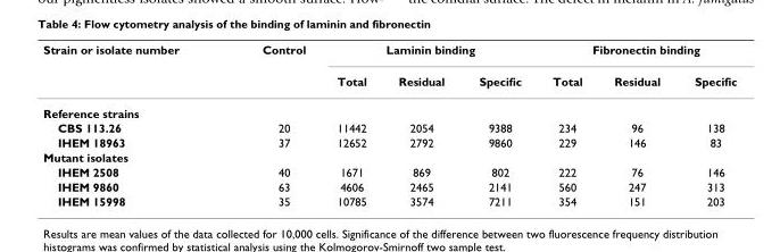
<table><thead><tr><td rowspan="2">Strain or isolate number</td><td rowspan="2">Control</td><td colspan="3">Laminin binding</td><td colspan="3">Fibronectin binding</td></tr><tr><td>Total</td><td>Residual</td><td>Specific</td><td>Total</td><td>Residual</td><td>Specific</td></tr></thead><tbody><tr><td colspan="8">Reference strains</td></tr><tr><td>CBS 113.26</td><td>20</td><td>11442</td><td>2054</td><td>9388</td><td>234</td><td>96</td><td>138</td></tr><tr><td>IHEM 18963</td><td>37</td><td>12652</td><td>2792</td><td>9860</td><td>229</td><td>146</td><td>83</td></tr><tr><td colspan="8">Mutant isolates</td></tr><tr><td>IHEM 2508</td><td>40</td><td>1671</td><td>869</td><td>802</td><td>222</td><td>76</td><td>146</td></tr><tr><td>IHEM 9860</td><td>63</td><td>4606</td><td>2465</td><td>2141</td><td>560</td><td>247</td><td>313</td></tr><tr><td>IHEM 15998</td><td>35</td><td>10785</td><td>3574</td><td>7211</td><td>354</td><td>151</td><td>203</td></tr></tbody></table>